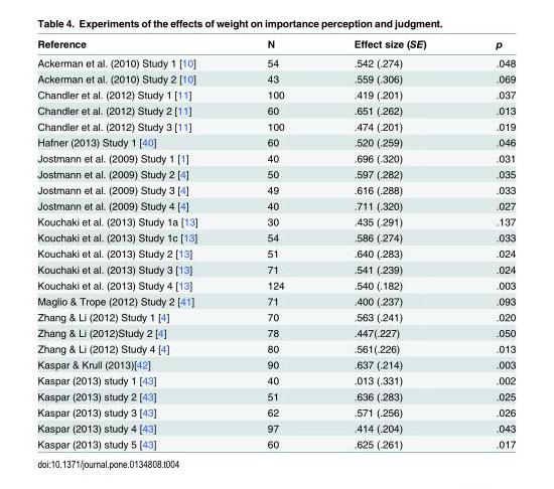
<table><thead><tr><td>Reference</td><td>N</td><td>Effect size (SE)</td><td>p</td></tr></thead><tbody><tr><td>Ackerman et al. (2010) Study 1 [10]</td><td>54</td><td>.542 (.274)</td><td>.048</td></tr><tr><td>Ackerman et al. (2010) Study 2 [10]</td><td>43</td><td>.559 (.306)</td><td>.069</td></tr><tr><td>Chandler et al. (2012) Study 1 [11]</td><td>100</td><td>.419 (.201)</td><td>.037</td></tr><tr><td>Chandler et al. (2012) Study 2 [11]</td><td>60</td><td>.651 (.262)</td><td>.013</td></tr><tr><td>Chandler et al. (2012) Study 3 [11]</td><td>100</td><td>.474 (.201)</td><td>.019</td></tr><tr><td>Hafner (2013) Study 1 [40]</td><td>60</td><td>.520 (.259)</td><td>.046</td></tr><tr><td>Jostmann et al. (2009) Study 1 [1]</td><td>40</td><td>.696 (.320)</td><td>.031</td></tr><tr><td>Jostmann et al. (2009) Study 2 [4]</td><td>50</td><td>.597 (.282)</td><td>.035</td></tr><tr><td>Jostmann et al. (2009) Study 3 [4]</td><td>49</td><td>.616 (.288)</td><td>.033</td></tr><tr><td>Jostmann et al. (2009) Study 4 [4]</td><td>40</td><td>.711 (.320)</td><td>.027</td></tr><tr><td>Kouchaki et al. (2013) Study 1a [13]</td><td>30</td><td>.435 (.291)</td><td>.137</td></tr><tr><td>Kouchaki et al. (2013) Study 1c [13]</td><td>54</td><td>.586 (.274)</td><td>.033</td></tr><tr><td>Kouchaki et al. (2013) Study 2 [13]</td><td>51</td><td>.640 (.283)</td><td>.024</td></tr><tr><td>Kouchaki et al. (2013) Study 3 [13]</td><td>71</td><td>.541 (.239)</td><td>.024</td></tr><tr><td>Kouchaki et al. (2013) Study 4 [13]</td><td>124</td><td>.540 (.182)</td><td>.003</td></tr><tr><td>Maglio &amp; Trope (2012) Study 2 [41]</td><td>71</td><td>.400 (.237)</td><td>.093</td></tr><tr><td>Zhang &amp; Li (2012) Study 1 [4]</td><td>70</td><td>.563 (.241)</td><td>.020</td></tr><tr><td>Zhang &amp; Li (2012)Study 2 [4]</td><td>78</td><td>.447(.227)</td><td>.050</td></tr><tr><td>Zhang &amp; Li (2012) Study 4 [4]</td><td>80</td><td>.561(.226)</td><td>.013</td></tr><tr><td>Kaspar &amp; Krull (2013)[42]</td><td>90</td><td>.637 (.214)</td><td>.003</td></tr><tr><td>Kaspar (2013) study 1 [43]</td><td>40</td><td>.013 (.331)</td><td>.002</td></tr><tr><td>Kaspar (2013) study 2 [43]</td><td>51</td><td>.636 (.283)</td><td>.025</td></tr><tr><td>Kaspar (2013) study 3 [43]</td><td>62</td><td>.571 (.256)</td><td>.026</td></tr><tr><td>Kaspar (2013) study 4 [43]</td><td>97</td><td>.414 (.204)</td><td>.043</td></tr><tr><td>Kaspar (2013) study 5 [43]</td><td>60</td><td>.625 (.261)</td><td>.017</td></tr></tbody></table>